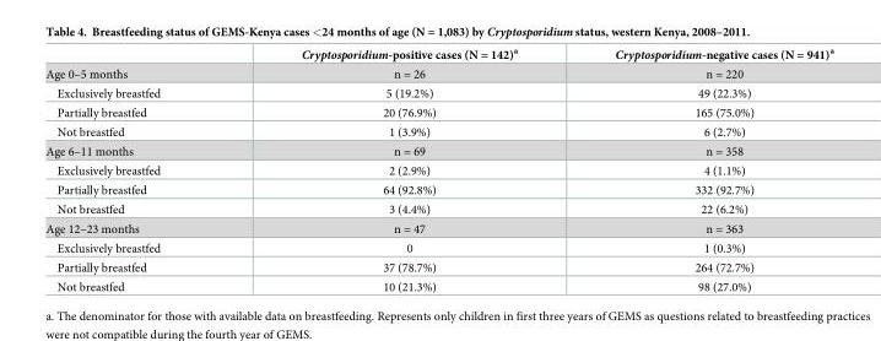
<table><thead><tr><td></td><td>Cryptosporidium-positive cases (N = 142)<sup>a</sup></td><td>Cryptosporidium-negative cases (N = 941)<sup>a</sup></td></tr></thead><tbody><tr><td>Age 0–5 months</td><td>n = 26</td><td>n = 220</td></tr><tr><td>Exclusively breastfed</td><td>5 (19.2%)</td><td>49 (22.3%)</td></tr><tr><td>Partially breastfed</td><td>20 (76.9%)</td><td>165 (75.0%)</td></tr><tr><td>Not breastfed</td><td>1 (3.9%)</td><td>6 (2.7%)</td></tr><tr><td>Age 6–11 months</td><td>n = 69</td><td>n = 358</td></tr><tr><td>Exclusively breastfed</td><td>2 (2.9%)</td><td>4 (1.1%)</td></tr><tr><td>Partially breastfed</td><td>64 (92.8%)</td><td>332 (92.7%)</td></tr><tr><td>Not breastfed</td><td>3 (4.4%)</td><td>22 (6.2%)</td></tr><tr><td>Age 12–23 months</td><td>n = 47</td><td>n = 363</td></tr><tr><td>Exclusively breastfed</td><td>0</td><td>1 (0.3%)</td></tr><tr><td>Partially breastfed</td><td>37 (78.7%)</td><td>264 (72.7%)</td></tr><tr><td>Not breastfed</td><td>10 (21.3%)</td><td>98 (27.0%)</td></tr></tbody></table>